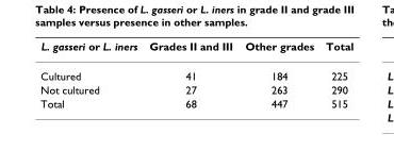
<table><thead><tr><td>L. gasseri or L. iners</td><td>Grades II and III</td><td>Other grades</td><td>Total</td></tr></thead><tbody><tr><td>Cultured</td><td>41</td><td>184</td><td>225</td></tr><tr><td>Not cultured</td><td>27</td><td>263</td><td>290</td></tr><tr><td>Total</td><td>68</td><td>447</td><td>515</td></tr></tbody></table>